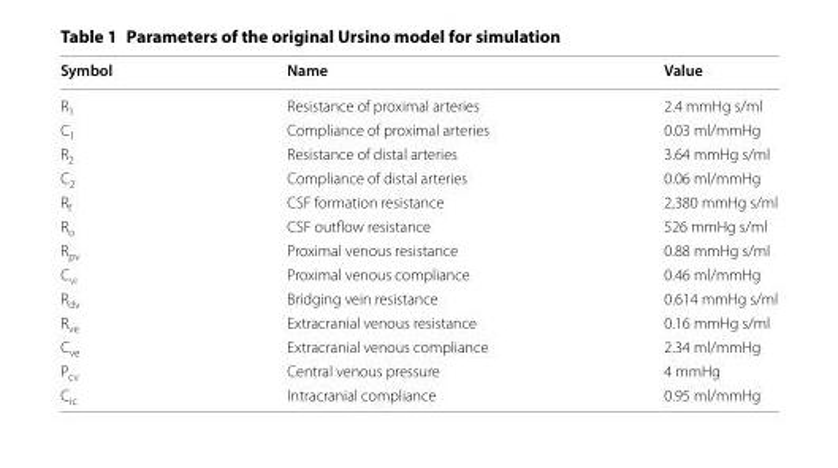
<table><thead><tr><td>Symbol</td><td>Name</td><td>Value</td></tr></thead><tbody><tr><td>R<sub>1</sub></td><td>Resistance of proximal arteries</td><td>2.4 mmHg s/ml</td></tr><tr><td>C<sub>1</sub></td><td>Compliance of proximal arteries</td><td>0.03 ml/mmHg</td></tr><tr><td>R<sub>2</sub></td><td>Resistance of distal arteries</td><td>3.64 mmHg s/ml</td></tr><tr><td>C<sub>2</sub></td><td>Compliance of distal arteries</td><td>0.06 ml/mmHg</td></tr><tr><td>R<sub>f</sub></td><td>CSF formation resistance</td><td>2,380 mmHg s/ml</td></tr><tr><td>R<sub>o</sub></td><td>CSF outflow resistance</td><td>526 mmHg s/ml</td></tr><tr><td>R<sub>pv</sub></td><td>Proximal venous resistance</td><td>0.88 mmHg s/ml</td></tr><tr><td>C<sub>vi</sub></td><td>Proximal venous compliance</td><td>0.46 ml/mmHg</td></tr><tr><td>R<sub>dv</sub></td><td>Bridging vein resistance</td><td>0.614 mmHg s/ml</td></tr><tr><td>R<sub>ve</sub></td><td>Extracranial venous resistance</td><td>0.16 mmHg s/ml</td></tr><tr><td>C<sub>ve</sub></td><td>Extracranial venous compliance</td><td>2.34 ml/mmHg</td></tr><tr><td>P<sub>cv</sub></td><td>Central venous pressure</td><td>4 mmHg</td></tr><tr><td>C<sub>ic</sub></td><td>Intracranial compliance</td><td>0.95 ml/mmHg</td></tr></tbody></table>